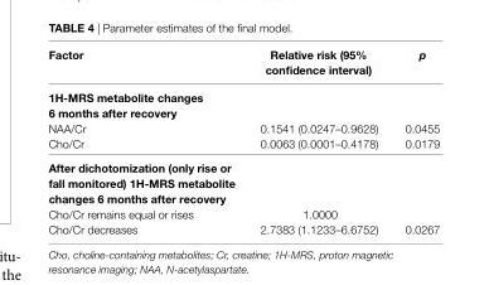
<table><thead><tr><td>Factor</td><td>relative risk (95% confidence interval)</td><td>p</td></tr></thead><tbody><tr><td colspan="3">1h-Mrs metabolite changes 6 months after recovery</td></tr><tr><td>NAA/Cr</td><td>0.1541 (0.0247–0.9628)</td><td>0.0455</td></tr><tr><td>Cho/Cr</td><td>0.0063 (0.0001–0.4178)</td><td>0.0179</td></tr><tr><td colspan="3">after dichotomization (only rise or fall monitored) 1h-Mrs metabolite changes 6 months after recovery</td></tr><tr><td>Cho/Cr remains equal or rises</td><td>1.0000</td><td></td></tr><tr><td>Cho/Cr decreases</td><td>2.7383 (1.1233–6.6752)</td><td>0.0267</td></tr></tbody></table>